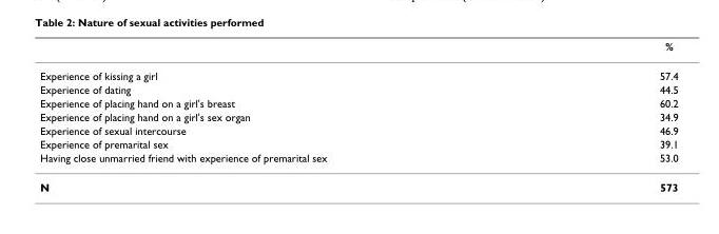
<table><thead><tr><td></td><td>%</td></tr></thead><tbody><tr><td>Experience of kissing a girl</td><td>57.4</td></tr><tr><td>Experience of dating</td><td>44.5</td></tr><tr><td>Experience of placing hand on a girl&#x27;s breast</td><td>60.2</td></tr><tr><td>Experience of placing hand on a girl&#x27;s sex organ</td><td>34.9</td></tr><tr><td>Experience of sexual intercourse</td><td>46.9</td></tr><tr><td>Experience of premarital sex</td><td>39.1</td></tr><tr><td>Having close unmarried friend with experience of premarital sex</td><td>53.0</td></tr><tr><td>N</td><td>573</td></tr></tbody></table>